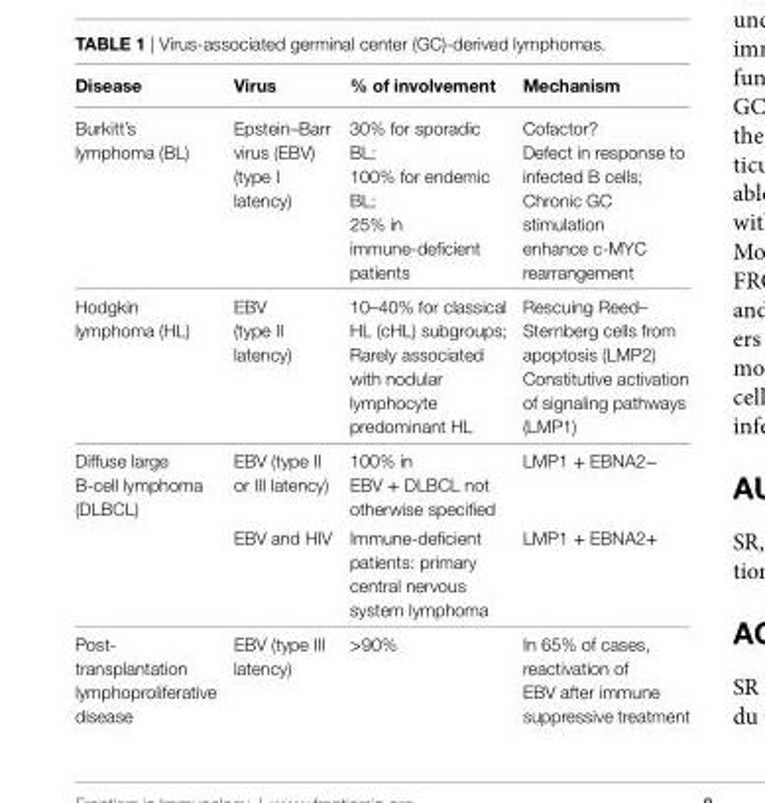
<table><thead><tr><td>Disease</td><td>virus</td><td>% of involvement</td><td>Mechanism</td></tr></thead><tbody><tr><td>Burkitt’s lymphoma (BL)</td><td>Epstein–Barr virus (EBV) (type I latency)</td><td>30% for sporadic BL; 100% for endemic BL; 25% in immune-deficient patients</td><td>Cofactor? Defect in response to infected B cells; Chronic GC stimulation enhance c-MYC rearrangement</td></tr><tr><td>Hodgkin lymphoma (HL)</td><td>EBV (type II latency)</td><td>10–40% for classical HL (cHL) subgroups; Rarely associated with nodular lymphocyte predominant HL</td><td>Rescuing Reed– Sternberg cells from apoptosis (LMP2) Constitutive activation of signaling pathways (LMP1)</td></tr><tr><td rowspan="2">Diffuse large B-cell lymphoma (DLBCL)</td><td>EBV (type II or III latency)</td><td>100% in EBV + DLBCL not otherwise specified</td><td>LMP1 + EBNA2−</td></tr><tr><td>EBV and HIV</td><td>Immune-deficient patients: primary central nervous system lymphoma</td><td>LMP1 + EBNA2+</td></tr><tr><td>Post- transplantation lymphoproliferative disease</td><td>EBV (type III latency)</td><td>&gt;90%</td><td>In 65% of cases, reactivation of EBV after immune suppressive treatment</td></tr></tbody></table>